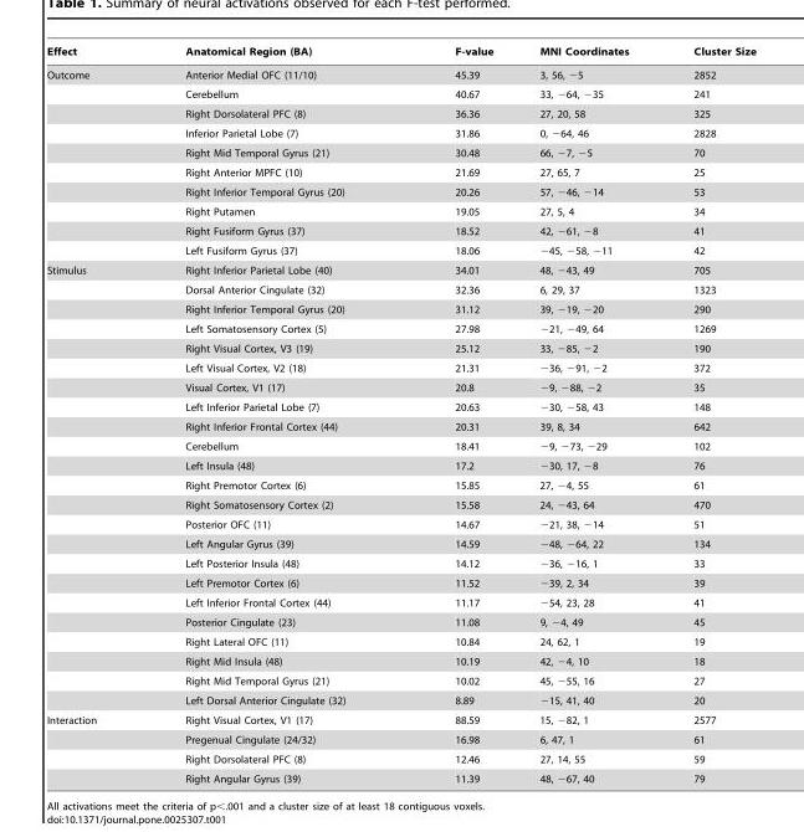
<table><thead><tr><td>Effect</td><td>Anatomical Region (BA)</td><td>F-value</td><td>MNI Coordinates</td><td>Cluster Size</td></tr></thead><tbody><tr><td rowspan="10">Outcome</td><td>Anterior Medial OFC (11/10)</td><td>45.39</td><td>3, 56, −5</td><td>2852</td></tr><tr><td>Cerebellum</td><td>40.67</td><td>33, −64, −35</td><td>241</td></tr><tr><td>Right Dorsolateral PFC (8)</td><td>36.36</td><td>27, 20, 58</td><td>325</td></tr><tr><td>Inferior Parietal Lobe (7)</td><td>31.86</td><td>0, −64, 46</td><td>2828</td></tr><tr><td>Right Mid Temporal Gyrus (21)</td><td>30.48</td><td>66, −7, −5</td><td>70</td></tr><tr><td>Right Anterior MPFC (10)</td><td>21.69</td><td>27, 65, 7</td><td>25</td></tr><tr><td>Right Inferior Temporal Gyrus (20)</td><td>20.26</td><td>57, −46, −14</td><td>53</td></tr><tr><td>Right Putamen</td><td>19.05</td><td>27, 5, 4</td><td>34</td></tr><tr><td>Right Fusiform Gyrus (37)</td><td>18.52</td><td>42, −61, −8</td><td>41</td></tr><tr><td>Left Fusiform Gyrus (37)</td><td>18.06</td><td>−45, −58, −11</td><td>42</td></tr><tr><td rowspan="23">Stimulus</td><td>Right Inferior Parietal Lobe (40)</td><td>34.01</td><td>48, −43, 49</td><td>705</td></tr><tr><td>Dorsal Anterior Cingulate (32)</td><td>32.36</td><td>6, 29, 37</td><td>1323</td></tr><tr><td>Right Inferior Temporal Gyrus (20)</td><td>31.12</td><td>39, −19, −20</td><td>290</td></tr><tr><td>Left Somatosensory Cortex (5)</td><td>27.98</td><td>−21, −49, 64</td><td>1269</td></tr><tr><td>Right Visual Cortex, V3 (19)</td><td>25.12</td><td>33, −85, −2</td><td>190</td></tr><tr><td>Left Visual Cortex, V2 (18)</td><td>21.31</td><td>−36, −91, −2</td><td>372</td></tr><tr><td>Visual Cortex, V1 (17)</td><td>20.8</td><td>−9, −88, −2</td><td>35</td></tr><tr><td>Left Inferior Parietal Lobe (7)</td><td>20.63</td><td>−30, −58, 43</td><td>148</td></tr><tr><td>Right Inferior Frontal Cortex (44)</td><td>20.31</td><td>39, 8, 34</td><td>642</td></tr><tr><td>Cerebellum</td><td>18.41</td><td>−9, −73, −29</td><td>102</td></tr><tr><td>Left Insula (48)</td><td>17.2</td><td>−30, 17, −8</td><td>76</td></tr><tr><td>Right Premotor Cortex (6)</td><td>15.85</td><td>27, −4, 55</td><td>61</td></tr><tr><td>Right Somatosensory Cortex (2)</td><td>15.58</td><td>24, −43, 64</td><td>470</td></tr><tr><td>Posterior OFC (11)</td><td>14.67</td><td>−21, 38, −14</td><td>51</td></tr><tr><td>Left Angular Gyrus (39)</td><td>14.59</td><td>−48, −64, 22</td><td>134</td></tr><tr><td>Left Posterior Insula (48)</td><td>14.12</td><td>−36, −16, 1</td><td>33</td></tr><tr><td>Left Premotor Cortex (6)</td><td>11.52</td><td>−39, 2, 34</td><td>39</td></tr><tr><td>Left Inferior Frontal Cortex (44)</td><td>11.17</td><td>−54, 23, 28</td><td>41</td></tr><tr><td>Posterior Cingulate (23)</td><td>11.08</td><td>9, −4, 49</td><td>45</td></tr><tr><td>Right Lateral OFC (11)</td><td>10.84</td><td>24, 62, 1</td><td>19</td></tr><tr><td>Right Mid Insula (48)</td><td>10.19</td><td>42, −4, 10</td><td>18</td></tr><tr><td>Right Mid Temporal Gyrus (21)</td><td>10.02</td><td>45, −55, 16</td><td>27</td></tr><tr><td>Left Dorsal Anterior Cingulate (32)</td><td>8.89</td><td>−15, 41, 40</td><td>20</td></tr><tr><td rowspan="4">Interaction</td><td>Right Visual Cortex, V1 (17)</td><td>88.59</td><td>15, −82, 1</td><td>2577</td></tr><tr><td>Pregenual Cingulate (24/32)</td><td>16.98</td><td>6, 47, 1</td><td>61</td></tr><tr><td>Right Dorsolateral PFC (8)</td><td>12.46</td><td>27, 14, 55</td><td>59</td></tr><tr><td>Right Angular Gyrus (39)</td><td>11.39</td><td>48, −67, 40</td><td>79</td></tr></tbody></table>